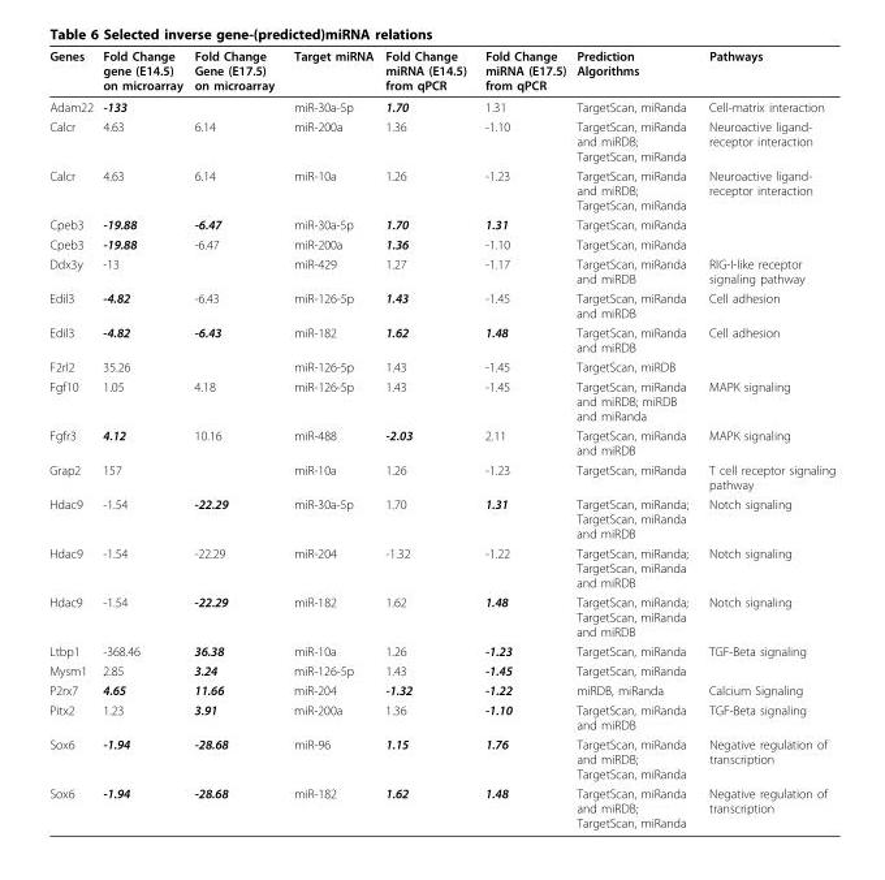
<table><thead><tr><td>Genes</td><td>Fold Change gene (E14.5) on microarray</td><td>Fold Change Gene (E17.5) on microarray</td><td>Target miRNA</td><td>Fold Change miRNA (E14.5) from qPCR</td><td>Fold Change miRNA (E17.5) from qPCR</td><td>Prediction Algorithms</td><td>Pathways</td></tr></thead><tbody><tr><td>Adam22</td><td>-133</td><td></td><td>miR-30a-5p</td><td>1.70</td><td>1.31</td><td>TargetScan, miRanda</td><td>Cell-matrix interaction</td></tr><tr><td>Calcr</td><td>4.63</td><td>6.14</td><td>miR-200a</td><td>1.36</td><td>-1.10</td><td>TargetScan, miRanda and miRDB; TargetScan, miRanda</td><td>Neuroactive ligand- receptor interaction</td></tr><tr><td>Calcr</td><td>4.63</td><td>6.14</td><td>miR-10a</td><td>1.26</td><td>-1.23</td><td>TargetScan, miRanda and miRDB; TargetScan, miRanda</td><td>Neuroactive ligand- receptor interaction</td></tr><tr><td>Cpeb3</td><td>-19.88</td><td>-6.47</td><td>miR-30a-5p</td><td>1.70</td><td>1.31</td><td>TargetScan, miRanda</td><td></td></tr><tr><td>Cpeb3</td><td>-19.88</td><td>-6.47</td><td>miR-200a</td><td>1.36</td><td>-1.10</td><td>TargetScan, miRanda</td><td></td></tr><tr><td>Ddx3y</td><td>-13</td><td></td><td>miR-429</td><td>1.27</td><td>-1.17</td><td>TargetScan, miRanda and miRDB</td><td>RIG-I-like receptor signaling pathway</td></tr><tr><td>Edil3</td><td>-4.82</td><td>-6.43</td><td>miR-126-5p</td><td>1.43</td><td>-1.45</td><td>TargetScan, miRanda and miRDB</td><td>Cell adhesion</td></tr><tr><td>Edil3</td><td>-4.82</td><td>-6.43</td><td>miR-182</td><td>1.62</td><td>1.48</td><td>TargetScan, miRanda and miRDB</td><td>Cell adhesion</td></tr><tr><td>F2rl2</td><td>35.26</td><td></td><td>miR-126-5p</td><td>1.43</td><td>-1.45</td><td>TargetScan, miRDB</td><td></td></tr><tr><td>Fgf10</td><td>1.05</td><td>4.18</td><td>miR-126-5p</td><td>1.43</td><td>-1.45</td><td>TargetScan, miRanda and miRDB; miRDB and miRanda</td><td>MAPK signaling</td></tr><tr><td>Fgfr3</td><td>4.12</td><td>10.16</td><td>miR-488</td><td>-2.03</td><td>2.11</td><td>TargetScan, miRanda and miRDB</td><td>MAPK signaling</td></tr><tr><td>Grap2</td><td>157</td><td></td><td>miR-10a</td><td>1.26</td><td>-1.23</td><td>TargetScan, miRanda</td><td>T cell receptor signaling pathway</td></tr><tr><td>Hdac9</td><td>-1.54</td><td>-22.29</td><td>miR-30a-5p</td><td>1.70</td><td>1.31</td><td>TargetScan, miRanda; TargetScan, miRanda and miRDB</td><td>Notch signaling</td></tr><tr><td>Hdac9</td><td>-1.54</td><td>-22.29</td><td>miR-204</td><td>-1.32</td><td>-1.22</td><td>TargetScan, miRanda; TargetScan, miRanda and miRDB</td><td>Notch signaling</td></tr><tr><td>Hdac9</td><td>-1.54</td><td>-22.29</td><td>miR-182</td><td>1.62</td><td>1.48</td><td>TargetScan, miRanda; TargetScan, miRanda and miRDB</td><td>Notch signaling</td></tr><tr><td>Ltbp1</td><td>-368.46</td><td>36.38</td><td>miR-10a</td><td>1.26</td><td>-1.23</td><td>TargetScan, miRanda</td><td>TGF-Beta signaling</td></tr><tr><td>Mysm1</td><td>2.85</td><td>3.24</td><td>miR-126-5p</td><td>1.43</td><td>-1.45</td><td>TargetScan, miRanda</td><td></td></tr><tr><td>P2rx7</td><td>4.65</td><td>11.66</td><td>miR-204</td><td>-1.32</td><td>-1.22</td><td>miRDB, miRanda</td><td>Calcium Signaling</td></tr><tr><td>Pitx2</td><td>1.23</td><td>3.91</td><td>miR-200a</td><td>1.36</td><td>-1.10</td><td>TargetScan, miRanda and miRDB</td><td>TGF-Beta signaling</td></tr><tr><td>Sox6</td><td>-1.94</td><td>-28.68</td><td>miR-96</td><td>1.15</td><td>1.76</td><td>TargetScan, miRanda and miRDB; TargetScan, miRanda</td><td>Negative regulation of transcription</td></tr><tr><td>Sox6</td><td>-1.94</td><td>-28.68</td><td>miR-182</td><td>1.62</td><td>1.48</td><td>TargetScan, miRanda and miRDB; TargetScan, miRanda</td><td>Negative regulation of transcription</td></tr></tbody></table>